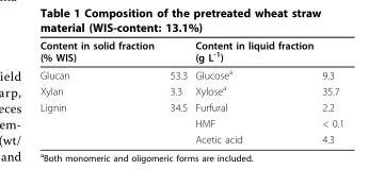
<table><tbody><tr><td>Content in solid fraction (% WIS)</td><td></td><td>Content in liquid fraction (g L<sup>-1</sup>)</td><td></td></tr><tr><td>Glucan</td><td>53.3</td><td>Glucose<sup>a</sup></td><td>9.3</td></tr><tr><td>Xylan</td><td>3.3</td><td>Xylose<sup>a</sup></td><td>35.7</td></tr><tr><td rowspan="3">Lignin</td><td>34.5</td><td>Furfural</td><td>2.2</td></tr><tr><td></td><td>HMF</td><td>&lt; 0.1</td></tr><tr><td></td><td>Acetic acid</td><td>4.3</td></tr></tbody></table>